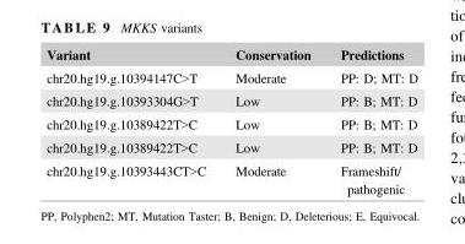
<table><thead><tr><td>Variant</td><td>Conservation</td><td>Predictions</td></tr></thead><tbody><tr><td>chr20.hg19.g.10394147C&gt;T</td><td>Moderate</td><td>PP: D; MT: D</td></tr><tr><td>chr20.hg19.g.10393304G&gt;T</td><td>Low</td><td>PP: B; MT: D</td></tr><tr><td>chr20.hg19.g.10389422T&gt;C</td><td>Low</td><td>PP: B; MT: D</td></tr><tr><td>chr20.hg19.g.10389422T&gt;C</td><td>Low</td><td>PP: B; MT: D</td></tr><tr><td>chr20.hg19.g.10393443CT&gt;C</td><td>Moderate</td><td>Frameshift/ pathogenic</td></tr></tbody></table>